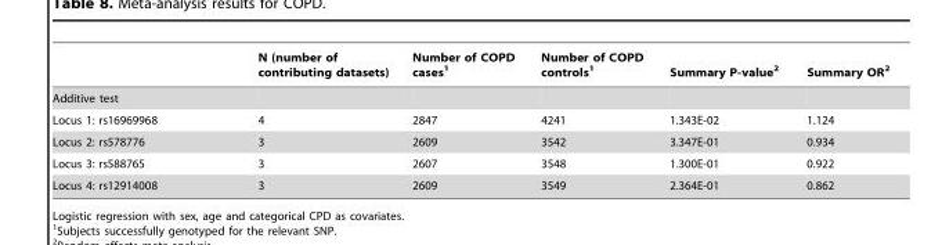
<table><thead><tr><td></td><td>N (number of contributing datasets)</td><td>Number of COPD cases<sup>1</sup></td><td>Number of COPD controls<sup>1</sup></td><td>Summary P-value<sup>2</sup></td><td>Summary OR<sup>2</sup></td></tr></thead><tbody><tr><td colspan="6">Additive test</td></tr><tr><td>Locus 1: rs16969968</td><td>4</td><td>2847</td><td>4241</td><td>1.343E-02</td><td>1.124</td></tr><tr><td>Locus 2: rs578776</td><td>3</td><td>2609</td><td>3542</td><td>3.347E-01</td><td>0.934</td></tr><tr><td>Locus 3: rs588765</td><td>3</td><td>2607</td><td>3548</td><td>1.300E-01</td><td>0.922</td></tr><tr><td>Locus 4: rs12914008</td><td>3</td><td>2609</td><td>3549</td><td>2.364E-01</td><td>0.862</td></tr></tbody></table>